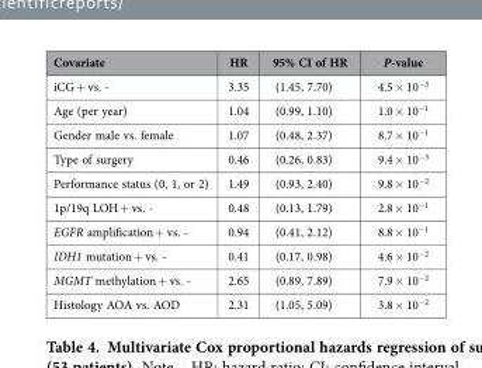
<table><thead><tr><td>Covariate</td><td>HR</td><td>95% CI of HR</td><td>P-value</td></tr></thead><tbody><tr><td>iCG + vs. -</td><td>3.35</td><td>(1.45, 7.70)</td><td>4.5 × 10<sup>−3</sup></td></tr><tr><td>Age (per year)</td><td>1.04</td><td>(0.99, 1.10)</td><td>1.0 × 10<sup>−1</sup></td></tr><tr><td>Gender male vs. female</td><td>1.07</td><td>(0.48, 2.37)</td><td>8.7 × 10<sup>−1</sup></td></tr><tr><td>Type of surgery</td><td>0.46</td><td>(0.26, 0.83)</td><td>9.4 × 10<sup>−3</sup></td></tr><tr><td>Performance status (0, 1, or 2)</td><td>1.49</td><td>(0.93, 2.40)</td><td>9.8 × 10<sup>−2</sup></td></tr><tr><td>1p/19q LOH + vs. -</td><td>0.48</td><td>(0.13, 1.79)</td><td>2.8 × 10<sup>−1</sup></td></tr><tr><td>EGFR amplification + vs. -</td><td>0.94</td><td>(0.41, 2.12)</td><td>8.8 × 10<sup>−1</sup></td></tr><tr><td>IDH1 mutation + vs. -</td><td>0.41</td><td>(0.17, 0.98)</td><td>4.6 × 10<sup>−2</sup></td></tr><tr><td>MGMT methylation + vs. -</td><td>2.65</td><td>(0.89, 7.89)</td><td>7.9 × 10<sup>−2</sup></td></tr><tr><td>Histology AOA vs. AOD</td><td>2.31</td><td>(1.05, 5.09)</td><td>3.8 × 10<sup>−2</sup></td></tr></tbody></table>